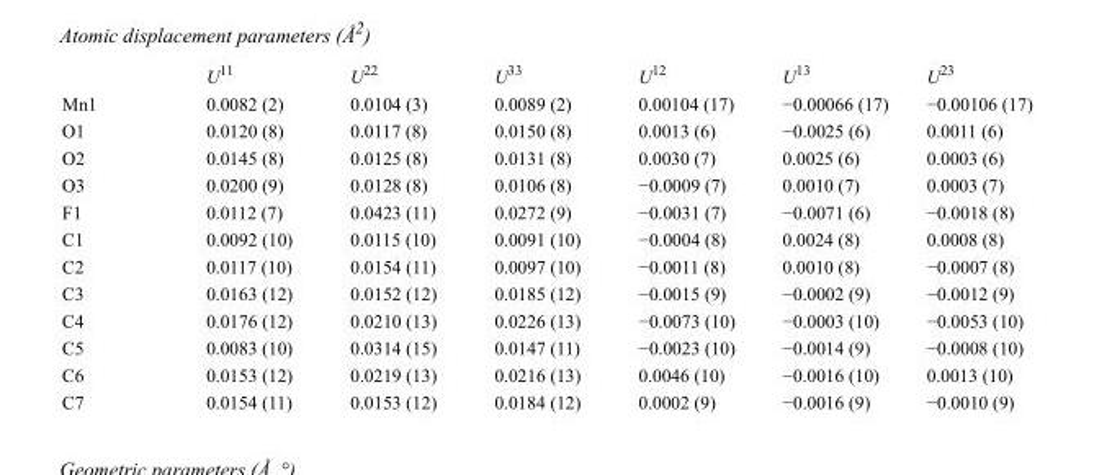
<table><thead><tr><td></td><td>U<sup>11</sup></td><td>U<sup>22</sup></td><td>U<sup>33</sup></td><td>U<sup>12</sup></td><td>U<sup>13</sup></td><td>U<sup>23</sup></td></tr></thead><tbody><tr><td>Mn1</td><td>0.0082 (2)</td><td>0.0104 (3)</td><td>0.0089 (2)</td><td>0.00104 (17)</td><td>−0.00066 (17)</td><td>−0.00106 (17)</td></tr><tr><td>O1</td><td>0.0120 (8)</td><td>0.0117 (8)</td><td>0.0150 (8)</td><td>0.0013 (6)</td><td>−0.0025 (6)</td><td>0.0011 (6)</td></tr><tr><td>O2</td><td>0.0145 (8)</td><td>0.0125 (8)</td><td>0.0131 (8)</td><td>0.0030 (7)</td><td>0.0025 (6)</td><td>0.0003 (6)</td></tr><tr><td>O3</td><td>0.0200 (9)</td><td>0.0128 (8)</td><td>0.0106 (8)</td><td>−0.0009 (7)</td><td>0.0010 (7)</td><td>0.0003 (7)</td></tr><tr><td>F1</td><td>0.0112 (7)</td><td>0.0423 (11)</td><td>0.0272 (9)</td><td>−0.0031 (7)</td><td>−0.0071 (6)</td><td>−0.0018 (8)</td></tr><tr><td>C1</td><td>0.0092 (10)</td><td>0.0115 (10)</td><td>0.0091 (10)</td><td>−0.0004 (8)</td><td>0.0024 (8)</td><td>0.0008 (8)</td></tr><tr><td>C2</td><td>0.0117 (10)</td><td>0.0154 (11)</td><td>0.0097 (10)</td><td>−0.0011 (8)</td><td>0.0010 (8)</td><td>−0.0007 (8)</td></tr><tr><td>C3</td><td>0.0163 (12)</td><td>0.0152 (12)</td><td>0.0185 (12)</td><td>−0.0015 (9)</td><td>−0.0002 (9)</td><td>−0.0012 (9)</td></tr><tr><td>C4</td><td>0.0176 (12)</td><td>0.0210 (13)</td><td>0.0226 (13)</td><td>−0.0073 (10)</td><td>−0.0003 (10)</td><td>−0.0053 (10)</td></tr><tr><td>C5</td><td>0.0083 (10)</td><td>0.0314 (15)</td><td>0.0147 (11)</td><td>−0.0023 (10)</td><td>−0.0014 (9)</td><td>−0.0008 (10)</td></tr><tr><td>C6</td><td>0.0153 (12)</td><td>0.0219 (13)</td><td>0.0216 (13)</td><td>0.0046 (10)</td><td>−0.0016 (10)</td><td>0.0013 (10)</td></tr><tr><td>C7</td><td>0.0154 (11)</td><td>0.0153 (12)</td><td>0.0184 (12)</td><td>0.0002 (9)</td><td>−0.0016 (9)</td><td>−0.0010 (9)</td></tr></tbody></table>